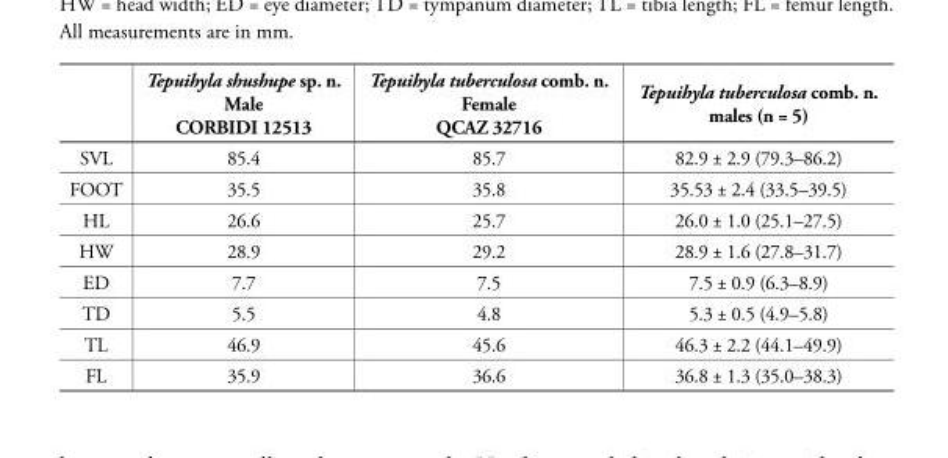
<table><thead><tr><td></td><td>Tepuihyla shushupe sp. n. Male CORBIDI 12513</td><td>Tepuihyla tuberculosa comb. n. Female QCAZ 32716</td><td>Tepuihyla tuberculosa comb. n. males (n = 5)</td></tr></thead><tbody><tr><td>SVL</td><td>85.4</td><td>85.7</td><td>82.9 ± 2.9 (79.3–86.2)</td></tr><tr><td>FOOT</td><td>35.5</td><td>35.8</td><td>35.53 ± 2.4 (33.5–39.5)</td></tr><tr><td>HL</td><td>26.6</td><td>25.7</td><td>26.0 ± 1.0 (25.1–27.5)</td></tr><tr><td>HW</td><td>28.9</td><td>29.2</td><td>28.9 ± 1.6 (27.8–31.7)</td></tr><tr><td>ED</td><td>7.7</td><td>7.5</td><td>7.5 ± 0.9 (6.3–8.9)</td></tr><tr><td>TD</td><td>5.5</td><td>4.8</td><td>5.3 ± 0.5 (4.9–5.8)</td></tr><tr><td>TL</td><td>46.9</td><td>45.6</td><td>46.3 ± 2.2 (44.1–49.9)</td></tr><tr><td>FL</td><td>35.9</td><td>36.6</td><td>36.8 ± 1.3 (35.0–38.3)</td></tr></tbody></table>